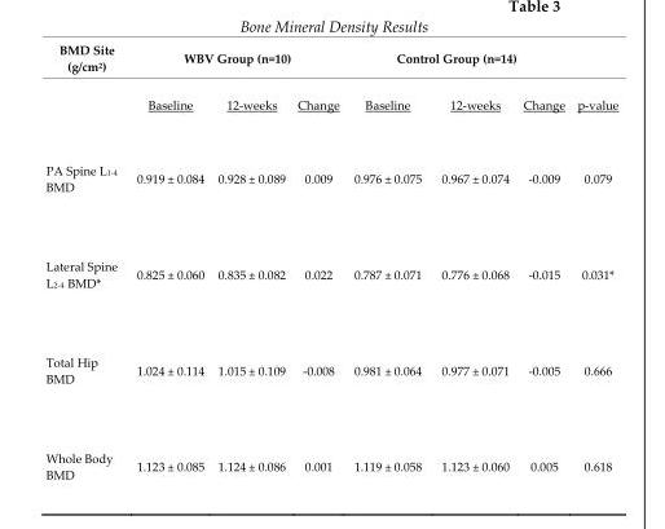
<table><thead><tr><td rowspan="2">BMD Site (g/cm<sup>2</sup>)</td><td colspan="3">WBV Group (n=10)</td><td colspan="3">Control Group (n=14)</td><td rowspan="2">p-value</td></tr><tr><td>Baseline</td><td>12-weeks</td><td>Change</td><td>Baseline</td><td>12-weeks</td><td>Change</td></tr></thead><tbody><tr><td>PA Spine L<sub>1-4</sub> BMD</td><td>0.919 ± 0.084</td><td>0.928 ± 0.089</td><td>0.009</td><td>0.976 ± 0.075</td><td>0.967 ± 0.074</td><td>-0.009</td><td>0.079</td></tr><tr><td>Lateral Spine L<sub>2-4</sub> BMD*</td><td>0.825 ± 0.060</td><td>0.835 ± 0.082</td><td>0.022</td><td>0.787 ± 0.071</td><td>0.776 ± 0.068</td><td>-0.015</td><td>0.031*</td></tr><tr><td>Total Hip BMD</td><td>1.024 ± 0.114</td><td>1.015 ± 0.109</td><td>-0.008</td><td>0.981 ± 0.064</td><td>0.977 ± 0.071</td><td>-0.005</td><td>0.666</td></tr><tr><td>Whole Body BMD</td><td>1.123 ± 0.085</td><td>1.124 ± 0.086</td><td>0.001</td><td>1.119 ± 0.058</td><td>1.123 ± 0.060</td><td>0.005</td><td>0.618</td></tr></tbody></table>